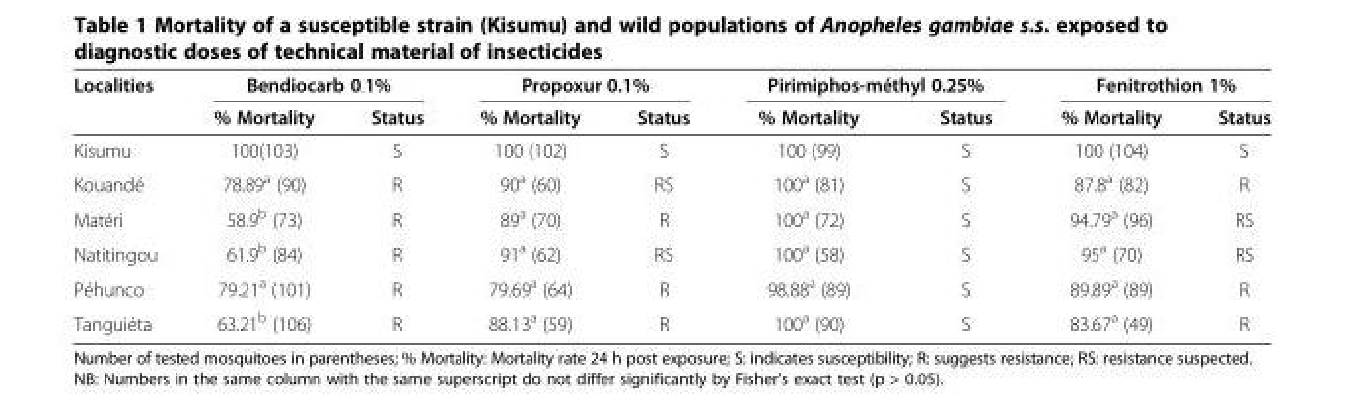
<table><thead><tr><td rowspan="2">Localities</td><td colspan="2">Bendiocarb 0.1%</td><td colspan="2">Propoxur 0.1%</td><td colspan="2">Pirimiphos-méthyl 0.25%</td><td colspan="2">Fenitrothion 1%</td></tr><tr><td>% Mortality</td><td>Status</td><td>% Mortality</td><td>Status</td><td>% Mortality</td><td>Status</td><td>% Mortality</td><td>Status</td></tr></thead><tbody><tr><td>Kisumu</td><td>100(103)</td><td>S</td><td>100 (102)</td><td>S</td><td>100 (99)</td><td>S</td><td>100 (104)</td><td>S</td></tr><tr><td>Kouandé</td><td>78.89<sup>a</sup> (90)</td><td>R</td><td>90<sup>a</sup> (60)</td><td>RS</td><td>100<sup>a</sup> (81)</td><td>S</td><td>87.8<sup>a</sup> (82)</td><td>R</td></tr><tr><td>Matéri</td><td>58.9<sup>b</sup> (73)</td><td>R</td><td>89<sup>a</sup> (70)</td><td>R</td><td>100<sup>a</sup> (72)</td><td>S</td><td>94.79<sup>a</sup> (96)</td><td>RS</td></tr><tr><td>Natitingou</td><td>61.9<sup>b</sup> (84)</td><td>R</td><td>91<sup>a</sup> (62)</td><td>RS</td><td>100<sup>a</sup> (58)</td><td>S</td><td>95<sup>a</sup> (70)</td><td>RS</td></tr><tr><td>Péhunco</td><td>79.21<sup>a</sup> (101)</td><td>R</td><td>79.69<sup>a</sup> (64)</td><td>R</td><td>98.88<sup>a</sup> (89)</td><td>S</td><td>89.89<sup>a</sup> (89)</td><td>R</td></tr><tr><td>Tanguiéta</td><td>63.21<sup>b</sup> (106)</td><td>R</td><td>88.13<sup>a</sup> (59)</td><td>R</td><td>100<sup>a</sup> (90)</td><td>S</td><td>83.67<sup>a</sup> (49)</td><td>R</td></tr></tbody></table>